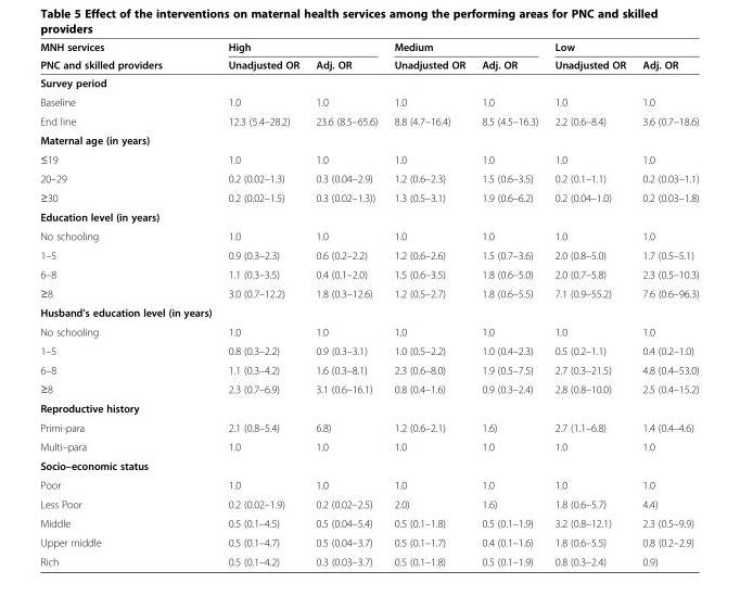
<table><thead><tr><td rowspan="2">MNH services PNC and skilled providers</td><td colspan="2">High</td><td colspan="2">Medium</td><td colspan="2">Low</td></tr><tr><td>Unadjusted OR</td><td>Adj. OR</td><td>Unadjusted OR</td><td>Adj. OR</td><td>Unadjusted OR</td><td>Adj. OR</td></tr></thead><tbody><tr><td colspan="7">Survey period</td></tr><tr><td>Baseline</td><td>1.0</td><td>1.0</td><td>1.0</td><td>1.0</td><td>1.0</td><td>1.0</td></tr><tr><td>End line</td><td>12.3 (5.4–28.2)</td><td>23.6 (8.5–65.6)</td><td>8.8 (4.7–16.4)</td><td>8.5 (4.5–16.3)</td><td>2.2 (0.6–8.4)</td><td>3.6 (0.7–18.6)</td></tr><tr><td colspan="7">Maternal age (in years)</td></tr><tr><td>≤19</td><td>1.0</td><td>1.0</td><td>1.0</td><td>1.0</td><td>1.0</td><td>1.0</td></tr><tr><td>20–29</td><td>0.2 (0.02–1.3)</td><td>0.3 (0.04–2.9)</td><td>1.2 (0.6–2.3)</td><td>1.5 (0.6–3.5)</td><td>0.2 (0.1–1.1)</td><td>0.2 (0.03–1.1)</td></tr><tr><td>≥30</td><td>0.2 (0.02–1.5)</td><td>0.3 (0.02–1.3))</td><td>1.3 (0.5–3.1)</td><td>1.9 (0.6–6.2)</td><td>0.2 (0.04–1.0)</td><td>0.2 (0.03–1.8)</td></tr><tr><td colspan="7">Education level (in years)</td></tr><tr><td>No schooling</td><td>1.0</td><td>1.0</td><td>1.0</td><td>1.0</td><td>1.0</td><td>1.0</td></tr><tr><td>1–5</td><td>0.9 (0.3–2.3)</td><td>0.6 (0.2–2.2)</td><td>1.2 (0.6–2.6)</td><td>1.5 (0.7–3.6)</td><td>2.0 (0.8–5.0)</td><td>1.7 (0.5–5.1)</td></tr><tr><td>6–8</td><td>1.1 (0.3–3.5)</td><td>0.4 (0.1–2.0)</td><td>1.5 (0.6–3.5)</td><td>1.8 (0.6–5.0)</td><td>2.0 (0.7–5.8)</td><td>2.3 (0.5–10.3)</td></tr><tr><td>≥8</td><td>3.0 (0.7–12.2)</td><td>1.8 (0.3–12.6)</td><td>1.2 (0.5–2.7)</td><td>1.8 (0.6–5.5)</td><td>7.1 (0.9–55.2)</td><td>7.6 (0.6–96.3)</td></tr><tr><td colspan="7">Husband’s education level (in years)</td></tr><tr><td>No schooling</td><td>1.0</td><td>1.0</td><td>1.0</td><td>1.0</td><td>1.0</td><td>1.0</td></tr><tr><td>1–5</td><td>0.8 (0.3–2.2)</td><td>0.9 (0.3–3.1)</td><td>1.0 (0.5–2.2)</td><td>1.0 (0.4–2.3)</td><td>0.5 (0.2–1.1)</td><td>0.4 (0.2–1.0)</td></tr><tr><td>6–8</td><td>1.1 (0.3–4.2)</td><td>1.6 (0.3–8.1)</td><td>2.3 (0.6–8.0)</td><td>1.9 (0.5–7.5)</td><td>2.7 (0.3–21.5)</td><td>4.8 (0.4–53.0)</td></tr><tr><td>≥8</td><td>2.3 (0.7–6.9)</td><td>3.1 (0.6–16.1)</td><td>0.8 (0.4–1.6)</td><td>0.9 (0.3–2.4)</td><td>2.8 (0.8–10.0)</td><td>2.5 (0.4–15.2)</td></tr><tr><td colspan="7">Reproductive history</td></tr><tr><td>Primi-para</td><td>2.1 (0.8–5.4)</td><td>6.8)</td><td>1.2 (0.6–2.1)</td><td>1.6)</td><td>2.7 (1.1–6.8)</td><td>1.4 (0.4–4.6)</td></tr><tr><td>Multi–para</td><td>1.0</td><td>1.0</td><td>1.0</td><td>1.0</td><td>1.0</td><td>1.0</td></tr><tr><td colspan="7">Socio–economic status</td></tr><tr><td>Poor</td><td>1.0</td><td>1.0</td><td>1.0</td><td>1.0</td><td>1.0</td><td>1.0</td></tr><tr><td>Less Poor</td><td>0.2 (0.02–1.9)</td><td>0.2 (0.02–2.5)</td><td>2.0)</td><td>1.6)</td><td>1.8 (0.6–5.7)</td><td>4.4)</td></tr><tr><td>Middle</td><td>0.5 (0.1–4.5)</td><td>0.5 (0.04–5.4)</td><td>0.5 (0.1–1.8)</td><td>0.5 (0.1–1.9)</td><td>3.2 (0.8–12.1)</td><td>2.3 (0.5–9.9)</td></tr><tr><td>Upper middle</td><td>0.5 (0.1–4.7)</td><td>0.5 (0.04–3.7)</td><td>0.5 (0.1–1.7)</td><td>0.4 (0.1–1.6)</td><td>1.8 (0.6–5.5)</td><td>0.8 (0.2–2.9)</td></tr><tr><td>Rich</td><td>0.5 (0.1–4.2)</td><td>0.3 (0.03–3.7)</td><td>0.5 (0.1–1.8)</td><td>0.5 (0.1–1.9)</td><td>0.8 (0.3–2.4)</td><td>0.9)</td></tr></tbody></table>